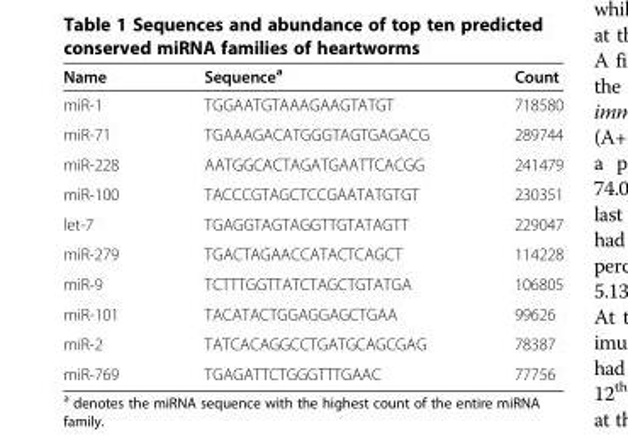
<table><thead><tr><td>Name</td><td>Sequence<sup>a</sup></td><td>Count</td></tr></thead><tbody><tr><td>miR-1</td><td>TGGAATGTAAAGAAGTATGT</td><td>718580</td></tr><tr><td>miR-71</td><td>TGAAAGACATGGGTAGTGAGACG</td><td>289744</td></tr><tr><td>miR-228</td><td>AATGGCACTAGATGAATTCACGG</td><td>241479</td></tr><tr><td>miR-100</td><td>TACCCGTAGCTCCGAATATGTGT</td><td>230351</td></tr><tr><td>let-7</td><td>TGAGGTAGTAGGTTGTATAGTT</td><td>229047</td></tr><tr><td>miR-279</td><td>TGACTAGAACCATACTCAGCT</td><td>114228</td></tr><tr><td>miR-9</td><td>TCTTTGGTTATCTAGCTGTATGA</td><td>106805</td></tr><tr><td>miR-101</td><td>TACATACTGGAGGAGCTGAA</td><td>99626</td></tr><tr><td>miR-2</td><td>TATCACAGGCCTGATGCAGCGAG</td><td>78387</td></tr><tr><td>miR-769</td><td>TGAGATTCTGGGTTTGAAC</td><td>77756</td></tr></tbody></table>